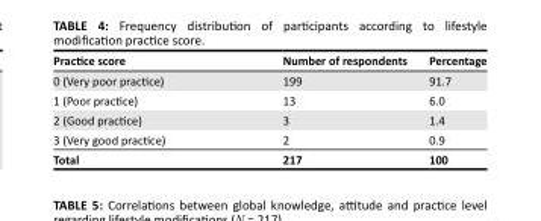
<table><thead><tr><td>Practice score</td><td>Number of respondents</td><td>Percentage</td></tr></thead><tbody><tr><td>0 (Very poor practice)</td><td>199</td><td>91.7</td></tr><tr><td>1 (Poor practice)</td><td>13</td><td>6.0</td></tr><tr><td>2 (Good practice)</td><td>3</td><td>1.4</td></tr><tr><td>3 (Very good practice)</td><td>2</td><td>0.9</td></tr><tr><td>Total</td><td>217</td><td>100</td></tr></tbody></table>